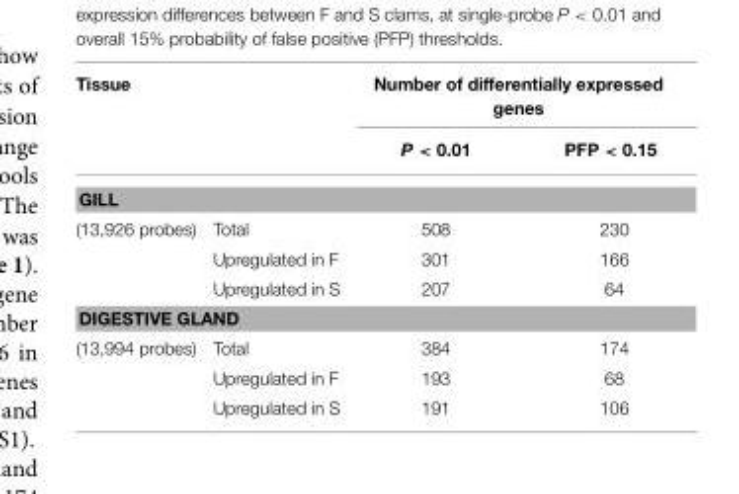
<table><thead><tr><td rowspan="2">Tissue</td><td rowspan="2"></td><td colspan="2">Number of differentially expressed genes</td></tr><tr><td>P &lt; 0.01</td><td>PFP &lt; 0.15</td></tr></thead><tbody><tr><td colspan="4">GILL</td></tr><tr><td rowspan="3">(13,926 probes)</td><td>Total</td><td>508</td><td>230</td></tr><tr><td>Upregulated in F</td><td>301</td><td>166</td></tr><tr><td>Upregulated in S</td><td>207</td><td>64</td></tr><tr><td colspan="4">DIGESTIVE GLAND</td></tr><tr><td rowspan="3">(13,994 probes)</td><td>Total</td><td>384</td><td>174</td></tr><tr><td>Upregulated in F</td><td>193</td><td>68</td></tr><tr><td>Upregulated in S</td><td>191</td><td>106</td></tr></tbody></table>